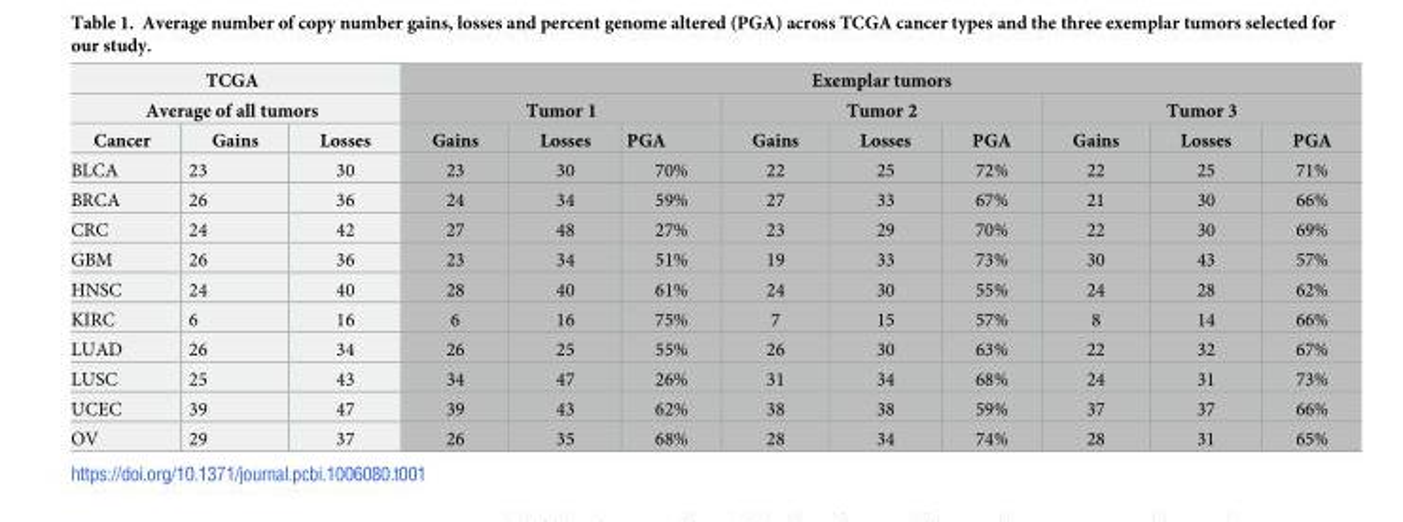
<table><thead><tr><td rowspan="2" colspan="3">TCGA Average of all tumors</td><td colspan="9">Exemplar tumors</td></tr><tr><td colspan="3">Tumor 1</td><td colspan="3">Tumor 2</td><td colspan="3">Tumor 3</td></tr><tr><td>Cancer</td><td>Gains</td><td>Losses</td><td>Gains</td><td>Losses</td><td>PGA</td><td>Gains</td><td>Losses</td><td>PGA</td><td>Gains</td><td>Losses</td><td>PGA</td></tr></thead><tbody><tr><td>BLCA</td><td>23</td><td>30</td><td>23</td><td>30</td><td>70%</td><td>22</td><td>25</td><td>72%</td><td>22</td><td>25</td><td>71%</td></tr><tr><td>BRCA</td><td>26</td><td>36</td><td>24</td><td>34</td><td>59%</td><td>27</td><td>33</td><td>67%</td><td>21</td><td>30</td><td>66%</td></tr><tr><td>CRC</td><td>24</td><td>42</td><td>27</td><td>48</td><td>27%</td><td>23</td><td>29</td><td>70%</td><td>22</td><td>30</td><td>69%</td></tr><tr><td>GBM</td><td>26</td><td>36</td><td>23</td><td>34</td><td>51%</td><td>19</td><td>33</td><td>73%</td><td>30</td><td>43</td><td>57%</td></tr><tr><td>HNSC</td><td>24</td><td>40</td><td>28</td><td>40</td><td>61%</td><td>24</td><td>30</td><td>55%</td><td>24</td><td>28</td><td>62%</td></tr><tr><td>KIRC</td><td>6</td><td>16</td><td>6</td><td>16</td><td>75%</td><td>7</td><td>15</td><td>57%</td><td>8</td><td>14</td><td>66%</td></tr><tr><td>LUAD</td><td>26</td><td>34</td><td>26</td><td>25</td><td>55%</td><td>26</td><td>30</td><td>63%</td><td>22</td><td>32</td><td>67%</td></tr><tr><td>LUSC</td><td>25</td><td>43</td><td>34</td><td>47</td><td>26%</td><td>31</td><td>34</td><td>68%</td><td>24</td><td>31</td><td>73%</td></tr><tr><td>UCEC</td><td>39</td><td>47</td><td>39</td><td>43</td><td>62%</td><td>38</td><td>38</td><td>59%</td><td>37</td><td>37</td><td>66%</td></tr><tr><td>OV</td><td>29</td><td>37</td><td>26</td><td>35</td><td>68%</td><td>28</td><td>34</td><td>74%</td><td>28</td><td>31</td><td>65%</td></tr></tbody></table>